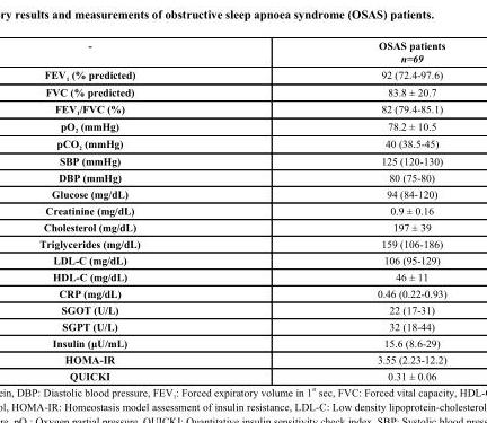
<table><thead><tr><td>-</td><td>OSAS patients n=69</td></tr></thead><tbody><tr><td>FEV<sub>1</sub> (% predicted)</td><td>92 (72.4-97.6)</td></tr><tr><td>FVC (% predicted)</td><td>83.8 ± 20.7</td></tr><tr><td>FEV<sub>1</sub>/FVC (%)</td><td>82 (79.4-85.1)</td></tr><tr><td>pO<sub>2</sub> (mmHg)</td><td>78.2 ± 10.5</td></tr><tr><td>pCO<sub>2</sub> (mmHg)</td><td>40 (38.5-45)</td></tr><tr><td>SBP (mmHg)</td><td>125 (120-130)</td></tr><tr><td>DBP (mmHg)</td><td>80 (75-80)</td></tr><tr><td>Glucose (mg/dL)</td><td>94 (84-120)</td></tr><tr><td>Creatinine (mg/dL)</td><td>0.9 ± 0.16</td></tr><tr><td>Cholesterol (mg/dL)</td><td>197 ± 39</td></tr><tr><td>Triglycerides (mg/dL)</td><td>159 (106-186)</td></tr><tr><td>LDL-C (mg/dL)</td><td>106 (95-129)</td></tr><tr><td>HDL-C (mg/dL)</td><td>46 ± 11</td></tr><tr><td>CRP (mg/dL)</td><td>0.46 (0.22-0.93)</td></tr><tr><td>SGOT (U/L)</td><td>22 (17-31)</td></tr><tr><td>SGPT (U/L)</td><td>32 (18-44)</td></tr><tr><td>Insulin (μU/mL)</td><td>15.6 (8.6-29)</td></tr><tr><td>HOMA-IR</td><td>3.55 (2.23-12.2)</td></tr><tr><td>QUICKI</td><td>0.31 ± 0.06</td></tr></tbody></table>